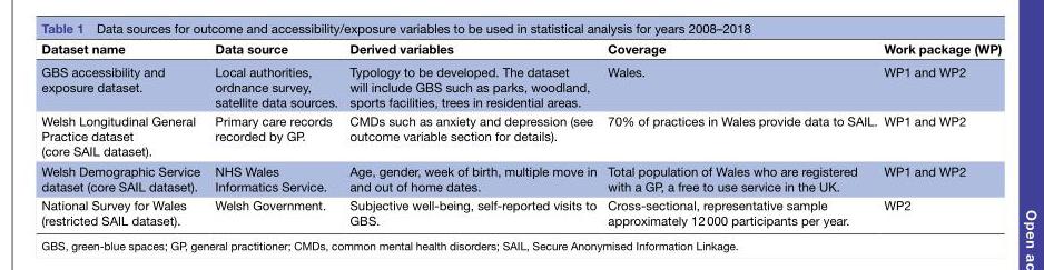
<table><thead><tr><td>Dataset name</td><td>Data source</td><td>Derived variables</td><td>Coverage</td><td>Work package (WP)</td></tr></thead><tbody><tr><td>GBS accessibility and exposure dataset.</td><td>Local authorities, ordnance survey, satellite data sources.</td><td>Typology to be developed. The dataset will include GBS such as parks, woodland, sports facilities, trees in residential areas.</td><td>Wales.</td><td>WP1 and WP2</td></tr><tr><td>Welsh Longitudinal General Practice dataset (core SAIL dataset).</td><td>Primary care records recorded by GP.</td><td>CMDs such as anxiety and depression (see outcome variable section for details).</td><td>70% of practices in Wales provide data to SAIL.</td><td>WP1 and WP2</td></tr><tr><td>Welsh Demographic Service dataset (core SAIL dataset).</td><td>NHS Wales Informatics Service.</td><td>Age, gender, week of birth, multiple move in and out of home dates.</td><td>Total population of Wales who are registered with a GP, a free to use service in the UK.</td><td>WP1 and WP2</td></tr><tr><td>National Survey for Wales (restricted SAIL dataset).</td><td>Welsh Government.</td><td>Subjective well-being, self-reported visits to GBS.</td><td>Cross-sectional, representative sample approximately 12 000 participants per year.</td><td>WP2</td></tr></tbody></table>